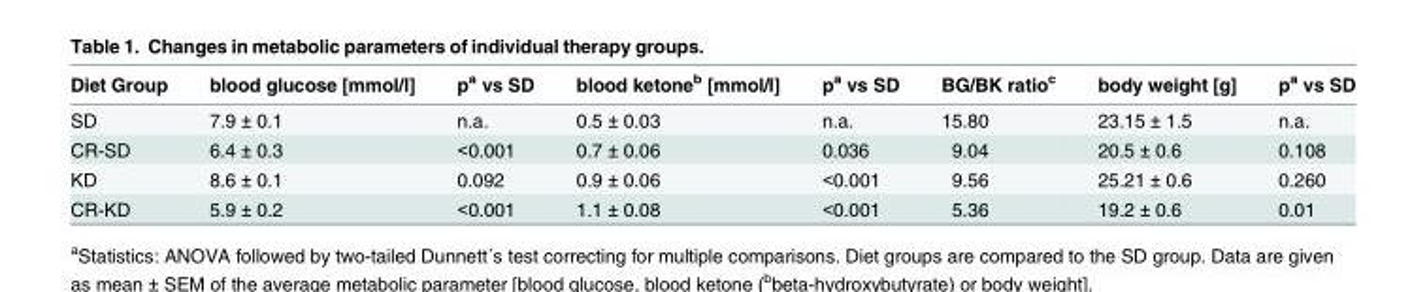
<table><thead><tr><td>Diet Group</td><td>blood glucose [mmol/l]</td><td>p<sup>a</sup> vs SD</td><td>blood ketone<sup>b</sup> [mmol/l]</td><td>p<sup>a</sup> vs SD</td><td>BG/BK ratio<sup>c</sup></td><td>body weight [g]</td><td>p<sup>a</sup> vs SD</td></tr></thead><tbody><tr><td>SD</td><td>7.9 ± 0.1</td><td>n.a.</td><td>0.5 ± 0.03</td><td>n.a.</td><td>15.80</td><td>23.15 ± 1.5</td><td>n.a.</td></tr><tr><td>CR-SD</td><td>6.4 ± 0.3</td><td>&lt;0.001</td><td>0.7 ± 0.06</td><td>0.036</td><td>9.04</td><td>20.5 ± 0.6</td><td>0.108</td></tr><tr><td>KD</td><td>8.6 ± 0.1</td><td>0.092</td><td>0.9 ± 0.06</td><td>&lt;0.001</td><td>9.56</td><td>25.21 ± 0.6</td><td>0.260</td></tr><tr><td>CR-KD</td><td>5.9 ± 0.2</td><td>&lt;0.001</td><td>1.1 ± 0.08</td><td>&lt;0.001</td><td>5.36</td><td>19.2 ± 0.6</td><td>0.01</td></tr></tbody></table>